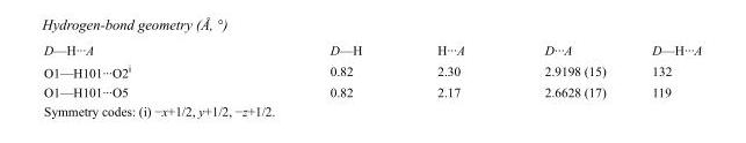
<table><tbody><tr><td>D—H···A</td><td>D—H</td><td>H···A</td><td>D···A</td><td>D—H···A</td></tr><tr><td>O1—H101···O2<sup>i</sup></td><td>0.82</td><td>2.30</td><td>2.9198 (15)</td><td>132</td></tr><tr><td>O1—H101···O5</td><td>0.82</td><td>2.17</td><td>2.6628 (17)</td><td>119</td></tr></tbody></table>